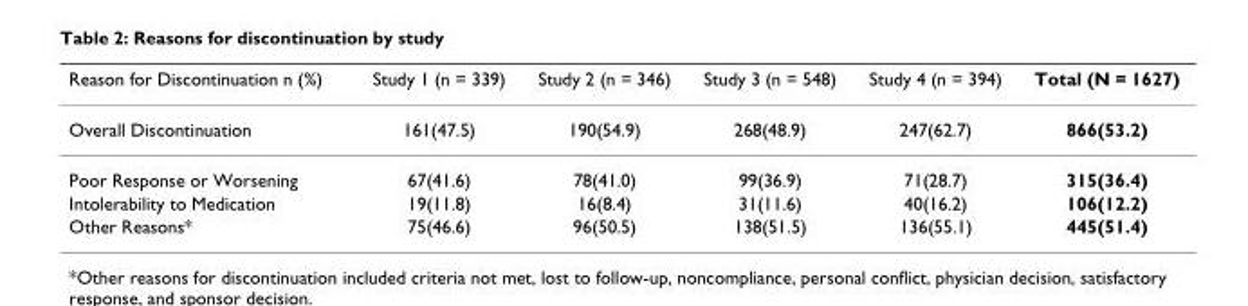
<table><thead><tr><td>Reason for Discontinuation n (%)</td><td>Study 1 (n = 339)</td><td>Study 2 (n = 346)</td><td>Study 3 (n = 548)</td><td>Study 4 (n = 394)</td><td>Total (N = 1627)</td></tr></thead><tbody><tr><td>Overall Discontinuation</td><td>161(47.5)</td><td>190(54.9)</td><td>268(48.9)</td><td>247(62.7)</td><td>866(53.2)</td></tr><tr><td>Poor Response or Worsening</td><td>67(41.6)</td><td>78(41.0)</td><td>99(36.9)</td><td>71(28.7)</td><td>315(36.4)</td></tr><tr><td>Intolerability to Medication</td><td>19(11.8)</td><td>16(8.4)</td><td>31(11.6)</td><td>40(16.2)</td><td>106(12.2)</td></tr><tr><td>Other Reasons*</td><td>75(46.6)</td><td>96(50.5)</td><td>138(51.5)</td><td>136(55.1)</td><td>445(51.4)</td></tr></tbody></table>